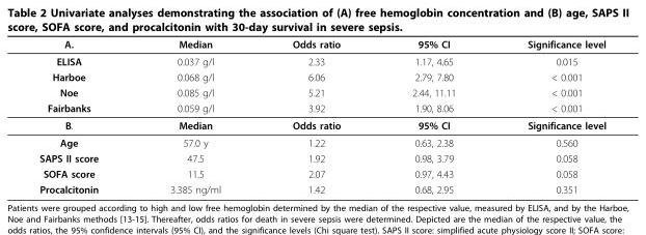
<table><thead><tr><td>A.</td><td>Median</td><td>Odds ratio</td><td>95% CI</td><td>Significance level</td></tr></thead><tbody><tr><td>ELISA</td><td>0.037 g/l</td><td>2.33</td><td>1.17, 4.65</td><td>0.015</td></tr><tr><td>Harboe</td><td>0.068 g/l</td><td>6.06</td><td>2.79, 7.80</td><td>&lt; 0.001</td></tr><tr><td>Noe</td><td>0.085 g/l</td><td>5.21</td><td>2.44, 11.11</td><td>&lt; 0.001</td></tr><tr><td>Fairbanks</td><td>0.059 g/l</td><td>3.92</td><td>1.90, 8.06</td><td>&lt; 0.001</td></tr><tr><td>B.</td><td>Median</td><td>Odds ratio</td><td>95% CI</td><td>Significance level</td></tr><tr><td>Age</td><td>57.0 y</td><td>1.22</td><td>0.63, 2.38</td><td>0.560</td></tr><tr><td>SAPS II score</td><td>47.5</td><td>1.92</td><td>0.98, 3.79</td><td>0.058</td></tr><tr><td>SOFA score</td><td>11.5</td><td>2.07</td><td>0.97, 4.43</td><td>0.058</td></tr><tr><td>Procalcitonin</td><td>3.385 ng/ml</td><td>1.42</td><td>0.68, 2.95</td><td>0.351</td></tr></tbody></table>